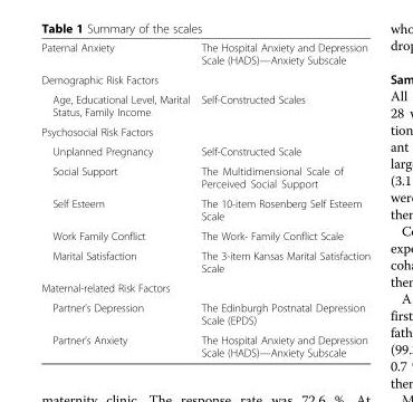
<table><tbody><tr><td>Paternal Anxiety</td><td>The Hospital Anxiety and Depression Scale (HADS)—Anxiety Subscale</td></tr><tr><td colspan="2">Demographic Risk Factors</td></tr><tr><td>Age, Educational Level, Marital Status, Family Income</td><td>Self-Constructed Scales</td></tr><tr><td colspan="2">Psychosocial Risk Factors</td></tr><tr><td>Unplanned Pregnancy</td><td>Self-Constructed Scale</td></tr><tr><td>Social Support</td><td>The Multidimensional Scale of Perceived Social Support</td></tr><tr><td>Self Esteem</td><td>The 10-item Rosenberg Self Esteem Scale</td></tr><tr><td>Work Family Conflict</td><td>The Work- Family Conflict Scale</td></tr><tr><td>Marital Satisfaction</td><td>The 3-item Kansas Marital Satisfaction Scale</td></tr><tr><td colspan="2">Maternal-related Risk Factors</td></tr><tr><td>Partner’s Depression</td><td>The Edinburgh Postnatal Depression Scale (EPDS)</td></tr><tr><td>Partner’s Anxiety</td><td>The Hospital Anxiety and Depression Scale (HADS)—Anxiety Subscale</td></tr></tbody></table>